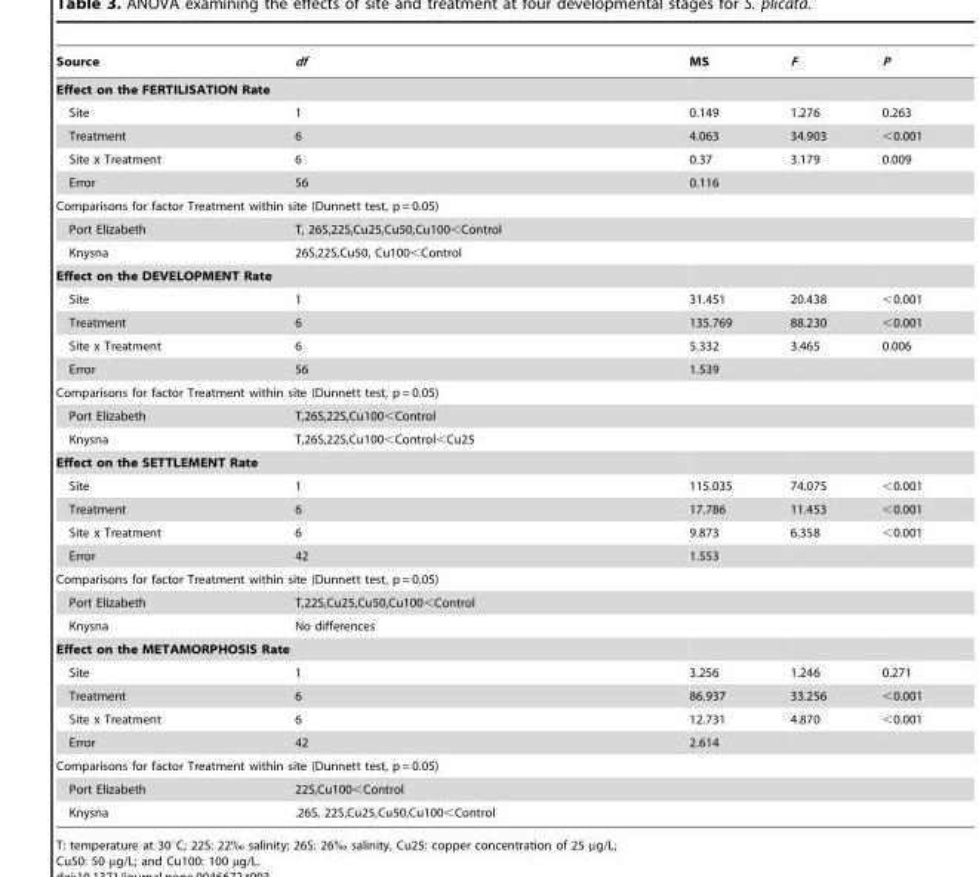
<table><thead><tr><td>Source</td><td>df</td><td>MS</td><td>F</td><td>P</td></tr></thead><tbody><tr><td colspan="5">Effect on the FERTILISATION Rate</td></tr><tr><td>Site</td><td>1</td><td>0.149</td><td>1.276</td><td>0.263</td></tr><tr><td>Treatment</td><td>6</td><td>4.063</td><td>34.903</td><td>&lt;0.001</td></tr><tr><td>Site x Treatment</td><td>6</td><td>0.37</td><td>3.179</td><td>0.009</td></tr><tr><td>Error</td><td>56</td><td>0.116</td><td></td><td></td></tr><tr><td colspan="5">Comparisons for factor Treatment within site (Dunnett test, p = 0.05)</td></tr><tr><td>Port Elizabeth</td><td colspan="4">T, 26S,22S,Cu25,Cu50,Cu100&lt;Control</td></tr><tr><td>Knysna</td><td colspan="4">26S,22S,Cu50, Cu100&lt;Control</td></tr><tr><td colspan="5">Effect on the DEVELOPMENT Rate</td></tr><tr><td>Site</td><td>1</td><td>31.451</td><td>20.438</td><td>&lt;0.001</td></tr><tr><td>Treatment</td><td>6</td><td>135.769</td><td>88.230</td><td>&lt;0.001</td></tr><tr><td>Site x Treatment</td><td>6</td><td>5.332</td><td>3.465</td><td>0.006</td></tr><tr><td>Error</td><td>56</td><td>1.539</td><td></td><td></td></tr><tr><td colspan="5">Comparisons for factor Treatment within site (Dunnett test, p = 0.05)</td></tr><tr><td>Port Elizabeth</td><td colspan="4">T,26S,22S,Cu100&lt;Control</td></tr><tr><td>Knysna</td><td colspan="4">T,26S,22S,Cu100&lt;Control&lt;Cu25</td></tr><tr><td colspan="5">Effect on the SETTLEMENT Rate</td></tr><tr><td>Site</td><td>1</td><td>115.035</td><td>74.075</td><td>&lt;0.001</td></tr><tr><td>Treatment</td><td>6</td><td>17.786</td><td>11.453</td><td>&lt;0.001</td></tr><tr><td>Site x Treatment</td><td>6</td><td>9.873</td><td>6.358</td><td>&lt;0.001</td></tr><tr><td>Error</td><td>42</td><td>1.553</td><td></td><td></td></tr><tr><td colspan="5">Comparisons for factor Treatment within site (Dunnett test, p = 0.05)</td></tr><tr><td>Port Elizabeth</td><td colspan="4">T,22S,Cu25,Cu50,Cu100&lt;Control</td></tr><tr><td>Knysna</td><td colspan="4">No differences</td></tr><tr><td colspan="5">Effect on the METAMORPHOSIS Rate</td></tr><tr><td>Site</td><td>1</td><td>3.256</td><td>1.246</td><td>0.271</td></tr><tr><td>Treatment</td><td>6</td><td>86.937</td><td>33.256</td><td>&lt;0.001</td></tr><tr><td>Site x Treatment</td><td>6</td><td>12.731</td><td>4.870</td><td>&lt;0.001</td></tr><tr><td>Error</td><td>42</td><td>2.614</td><td></td><td></td></tr><tr><td colspan="5">Comparisons for factor Treatment within site (Dunnett test, p = 0.05)</td></tr><tr><td>Port Elizabeth</td><td colspan="4">22S,Cu100&lt;Control</td></tr><tr><td>Knysna</td><td colspan="4">.26S, 22S,Cu25,Cu50,Cu100&lt;Control</td></tr></tbody></table>